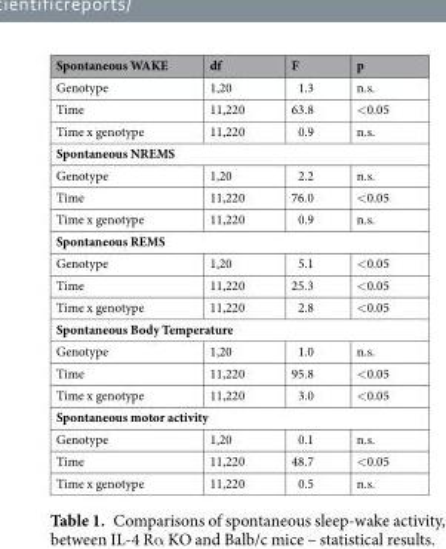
<table><thead><tr><td>Spontaneous WAKE</td><td>df</td><td>F</td><td>p</td></tr></thead><tbody><tr><td>Genotype</td><td>1,20</td><td>1.3</td><td>n.s.</td></tr><tr><td>Time</td><td>11,220</td><td>63.8</td><td>&lt;0.05</td></tr><tr><td>Time x genotype</td><td>11,220</td><td>0.9</td><td>n.s.</td></tr><tr><td colspan="4">Spontaneous NREMS</td></tr><tr><td>Genotype</td><td>1,20</td><td>2.2</td><td>n.s.</td></tr><tr><td>Time</td><td>11,220</td><td>76.0</td><td>&lt;0.05</td></tr><tr><td>Time x genotype</td><td>11,220</td><td>0.9</td><td>n.s.</td></tr><tr><td colspan="4">Spontaneous REMS</td></tr><tr><td>Genotype</td><td>1,20</td><td>5.1</td><td>&lt;0.05</td></tr><tr><td>Time</td><td>11,220</td><td>25.3</td><td>&lt;0.05</td></tr><tr><td>Time x genotype</td><td>11,220</td><td>2.8</td><td>&lt;0.05</td></tr><tr><td colspan="4">Spontaneous Body Temperature</td></tr><tr><td>Genotype</td><td>1,20</td><td>1.0</td><td>n.s.</td></tr><tr><td>Time</td><td>11,220</td><td>95.8</td><td>&lt;0.05</td></tr><tr><td>Time x genotype</td><td>11,220</td><td>3.0</td><td>&lt;0.05</td></tr><tr><td colspan="4">Spontaneous motor activity</td></tr><tr><td>Genotype</td><td>1,20</td><td>0.1</td><td>n.s.</td></tr><tr><td>Time</td><td>11,220</td><td>48.7</td><td>&lt;0.05</td></tr><tr><td>Time x genotype</td><td>11,220</td><td>0.5</td><td>n.s.</td></tr></tbody></table>